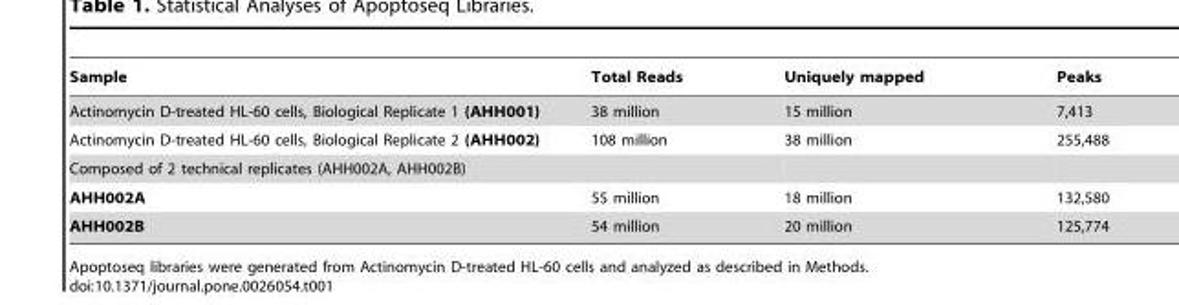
<table><thead><tr><td>Sample</td><td>Total Reads</td><td>Uniquely mapped</td><td>Peaks</td></tr></thead><tbody><tr><td>Actinomycin D-treated HL-60 cells, Biological Replicate 1 (AHH001)</td><td>38 million</td><td>15 million</td><td>7,413</td></tr><tr><td>Actinomycin D-treated HL-60 cells, Biological Replicate 2 (AHH002)</td><td>108 million</td><td>38 million</td><td>255,488</td></tr><tr><td colspan="4">Composed of 2 technical replicates (AHH002A, AHH002B)</td></tr><tr><td>AHH002A</td><td>55 million</td><td>18 million</td><td>132,580</td></tr><tr><td>AHH002B</td><td>54 million</td><td>20 million</td><td>125,774</td></tr></tbody></table>